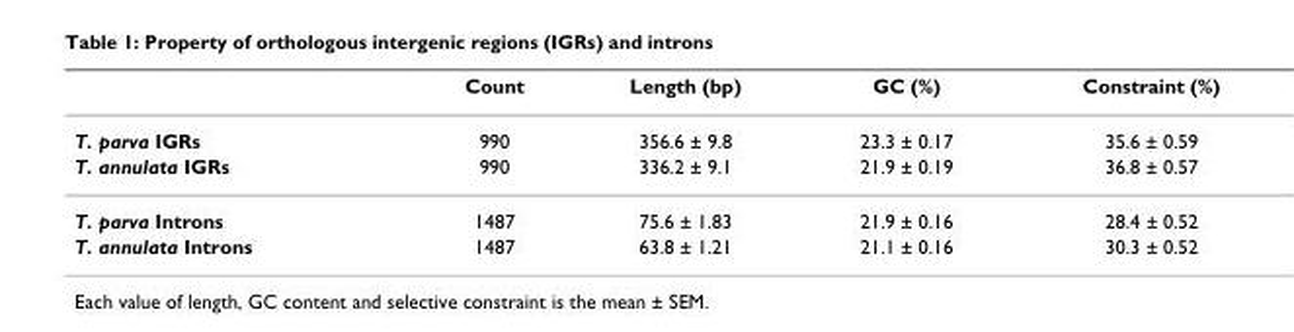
<table><thead><tr><td></td><td>Count</td><td>Length (bp)</td><td>GC (%)</td><td>Constraint (%)</td></tr></thead><tbody><tr><td>T. parva IGRs</td><td>990</td><td>356.6 ± 9.8</td><td>23.3 ± 0.17</td><td>35.6 ± 0.59</td></tr><tr><td>T. annulata IGRs</td><td>990</td><td>336.2 ± 9.1</td><td>21.9 ± 0.19</td><td>36.8 ± 0.57</td></tr><tr><td>T. parva Introns</td><td>1487</td><td>75.6 ± 1.83</td><td>21.9 ± 0.16</td><td>28.4 ± 0.52</td></tr><tr><td>T. annulata Introns</td><td>1487</td><td>63.8 ± 1.21</td><td>21.1 ± 0.16</td><td>30.3 ± 0.52</td></tr></tbody></table>